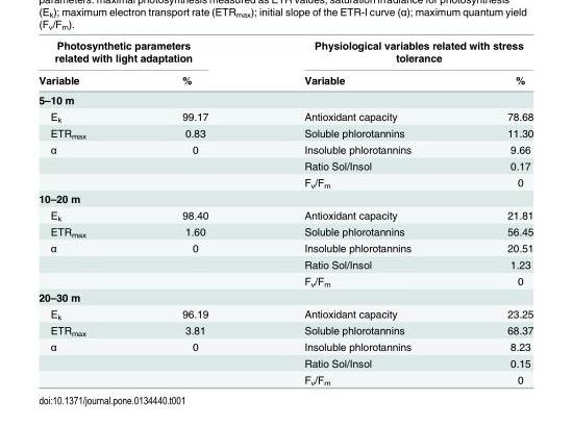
<table><thead><tr><td colspan="2">Photosynthetic parameters related with light adaptation</td><td colspan="2">Physiological variables related with stress tolerance</td></tr><tr><td>Variable</td><td>%</td><td>Variable</td><td>%</td></tr></thead><tbody><tr><td colspan="4">5–10 m</td></tr><tr><td>E<sub>k</sub></td><td>99.17</td><td>Antioxidant capacity</td><td>78.68</td></tr><tr><td>ETR<sub>max</sub></td><td>0.83</td><td>Soluble phlorotannins</td><td>11.30</td></tr><tr><td rowspan="3">α</td><td>0</td><td>Insoluble phlorotannins</td><td>9.66</td></tr><tr><td></td><td>Ratio Sol/Insol</td><td>0.17</td></tr><tr><td></td><td>F<sub>v</sub>/F<sub>m</sub></td><td>0</td></tr><tr><td colspan="4">10–20 m</td></tr><tr><td>E<sub>k</sub></td><td>98.40</td><td>Antioxidant capacity</td><td>21.81</td></tr><tr><td>ETR<sub>max</sub></td><td>1.60</td><td>Soluble phlorotannins</td><td>56.45</td></tr><tr><td rowspan="3">α</td><td>0</td><td>Insoluble phlorotannins</td><td>20.51</td></tr><tr><td></td><td>Ratio Sol/Insol</td><td>1.23</td></tr><tr><td></td><td>F<sub>v</sub>/F<sub>m</sub></td><td>0</td></tr><tr><td colspan="4">20–30 m</td></tr><tr><td>E<sub>k</sub></td><td>96.19</td><td>Antioxidant capacity</td><td>23.25</td></tr><tr><td>ETR<sub>max</sub></td><td>3.81</td><td>Soluble phlorotannins</td><td>68.37</td></tr><tr><td rowspan="3">α</td><td>0</td><td>Insoluble phlorotannins</td><td>8.23</td></tr><tr><td></td><td>Ratio Sol/Insol</td><td>0.15</td></tr><tr><td></td><td>F<sub>v</sub>/F<sub>m</sub></td><td>0</td></tr></tbody></table>